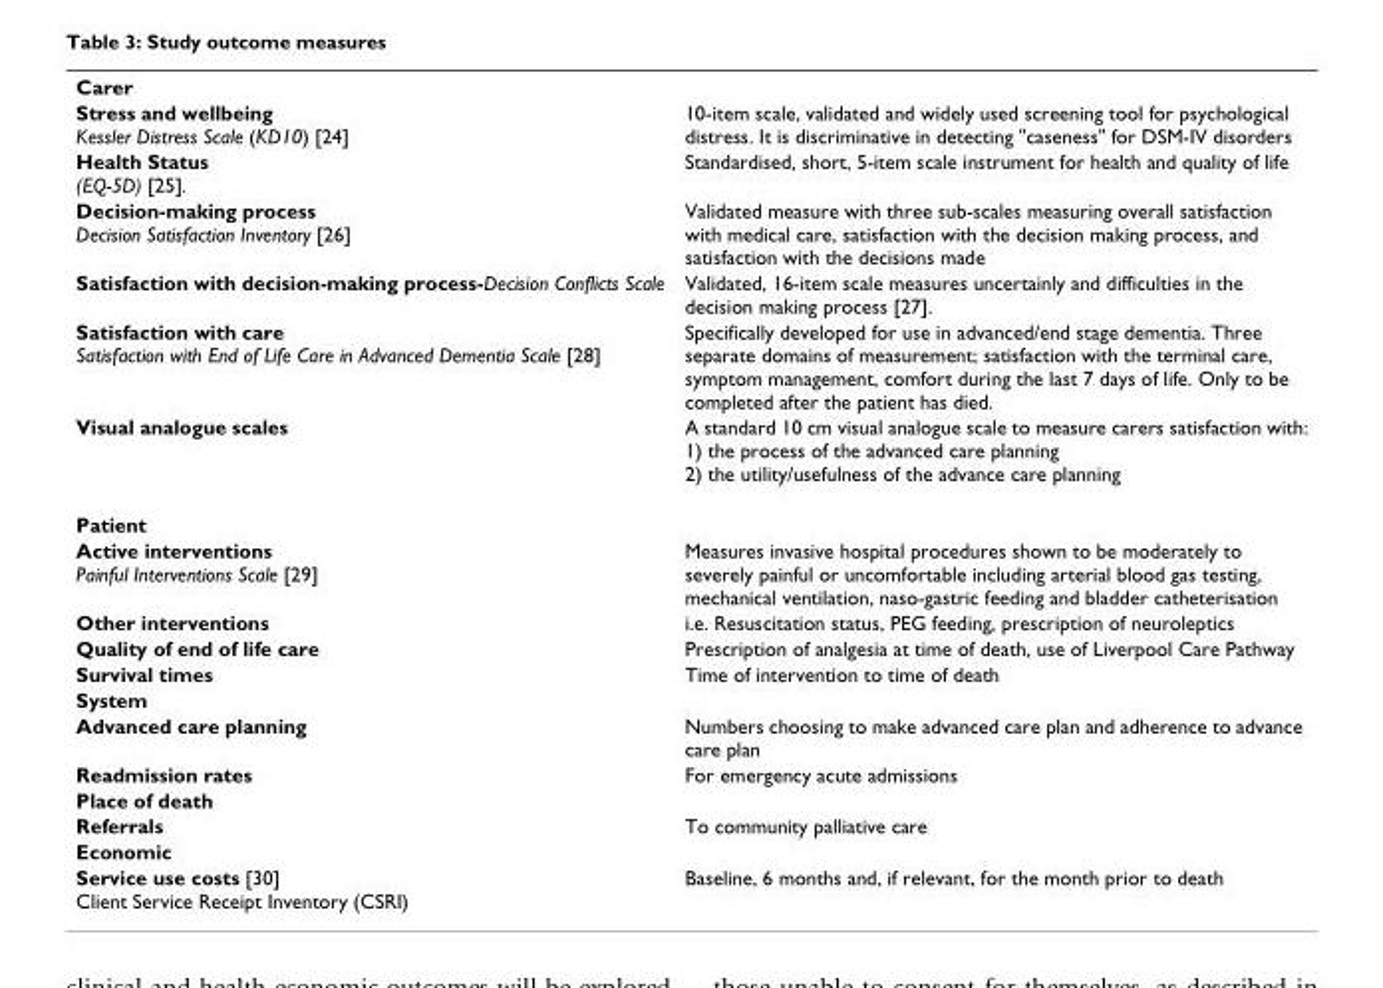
<table><tbody><tr><td colspan="2">Carer</td></tr><tr><td>Stress and wellbeing Kessler Distress Scale (KD10) [24]</td><td>10-item scale, validated and widely used screening tool for psychological distress. It is discriminative in detecting &quot;caseness&quot; for DSM-IV disorders</td></tr><tr><td>Health Status (EQ-5D) [25].</td><td>Standardised, short, 5-item scale instrument for health and quality of life</td></tr><tr><td>Decision-making process Decision Satisfaction Inventory [26]</td><td>Validated measure with three sub-scales measuring overall satisfaction with medical care, satisfaction with the decision making process, and satisfaction with the decisions made</td></tr><tr><td>Satisfaction with decision-making process-Decision Conflicts Scale</td><td>Validated, 16-item scale measures uncertainly and difficulties in the decision making process [27].</td></tr><tr><td>Satisfaction with care Satisfaction with End of Life Care in Advanced Dementia Scale [28]</td><td>Specifically developed for use in advanced/end stage dementia. Three separate domains of measurement; satisfaction with the terminal care, symptom management, comfort during the last 7 days of life. Only to be completed after the patient has died.</td></tr><tr><td>Visual analogue scales</td><td>A standard 10 cm visual analogue scale to measure carers satisfaction with: 1) the process of the advanced care planning 2) the utility/usefulness of the advance care planning</td></tr><tr><td colspan="2">Patient</td></tr><tr><td>Active interventions Painful Interventions Scale [29]</td><td>Measures invasive hospital procedures shown to be moderately to severely painful or uncomfortable including arterial blood gas testing, mechanical ventilation, naso-gastric feeding and bladder catheterisation</td></tr><tr><td>Other interventions</td><td>i.e. Resuscitation status, PEG feeding, prescription of neuroleptics</td></tr><tr><td>Quality of end of life care</td><td>Prescription of analgesia at time of death, use of Liverpool Care Pathway</td></tr><tr><td>Survival times</td><td>Time of intervention to time of death</td></tr><tr><td colspan="2">System</td></tr><tr><td>Advanced care planning</td><td>Numbers choosing to make advanced care plan and adherence to advance care plan</td></tr><tr><td>Readmission rates</td><td>For emergency acute admissions</td></tr><tr><td colspan="2">Place of death</td></tr><tr><td>Referrals</td><td>To community palliative care</td></tr><tr><td colspan="2">Economic</td></tr><tr><td>Service use costs [30] Client Service Receipt Inventory (CSRI)</td><td>Baseline, 6 months and, if relevant, for the month prior to death</td></tr></tbody></table>